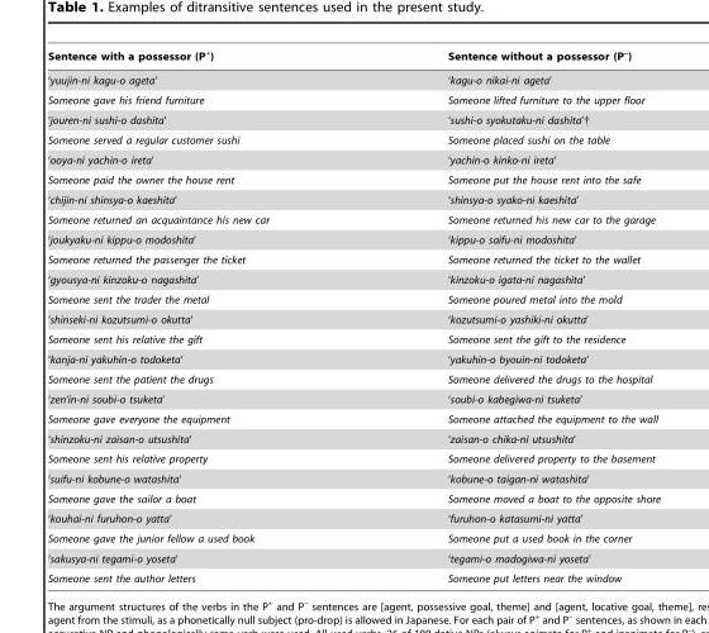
<table><thead><tr><td>Sentence with a possessor (P<sup>+</sup>)</td><td>Sentence without a possessor (P<sup>–</sup>)</td></tr></thead><tbody><tr><td>‘yuujin-ni kagu-o ageta’</td><td>‘kagu-o nikai-ni ageta’</td></tr><tr><td>Someone gave his friend furniture</td><td>Someone lifted furniture to the upper floor</td></tr><tr><td>‘jouren-ni sushi-o dashita’</td><td>‘sushi-o syokutaku-ni dashita’†</td></tr><tr><td>Someone served a regular customer sushi</td><td>Someone placed sushi on the table</td></tr><tr><td>‘ooya-ni yachin-o ireta’</td><td>‘yachin-o kinko-ni ireta’</td></tr><tr><td>Someone paid the owner the house rent</td><td>Someone put the house rent into the safe</td></tr><tr><td>‘chijin-ni shinsya-o kaeshita’</td><td>‘shinsya-o syako-ni kaeshita’</td></tr><tr><td>Someone returned an acquaintance his new car</td><td>Someone returned his new car to the garage</td></tr><tr><td>‘joukyaku-ni kippu-o modoshita’</td><td>‘kippu-o saifu-ni modoshita’</td></tr><tr><td>Someone returned the passenger the ticket</td><td>Someone returned the ticket to the wallet</td></tr><tr><td>‘gyousya-ni kinzoku-o nagashita’</td><td>‘kinzoku-o igata-ni nagashita’</td></tr><tr><td>Someone sent the trader the metal</td><td>Someone poured metal into the mold</td></tr><tr><td>‘shinseki-ni kozutsumi-o okutta’</td><td>‘kozutsumi-o yashiki-ni okutta’</td></tr><tr><td>Someone sent his relative the gift</td><td>Someone sent the gift to the residence</td></tr><tr><td>‘kanja-ni yakuhin-o todoketa’</td><td>‘yakuhin-o byouin-ni todoketa’</td></tr><tr><td>Someone sent the patient the drugs</td><td>Someone delivered the drugs to the hospital</td></tr><tr><td>‘zen’in-ni soubi-o tsuketa’</td><td>‘soubi-o kabegiwa-ni tsuketa’</td></tr><tr><td>Someone gave everyone the equipment</td><td>Someone attached the equipment to the wall</td></tr><tr><td>‘shinzoku-ni zaisan-o utsushita’</td><td>‘zaisan-o chika-ni utsushita’</td></tr><tr><td>Someone sent his relative property</td><td>Someone delivered property to the basement</td></tr><tr><td>‘suifu-ni kobune-o watashita’</td><td>‘kobune-o taigan-ni watashita’</td></tr><tr><td>Someone gave the sailor a boat</td><td>Someone moved a boat to the opposite shore</td></tr><tr><td>‘kouhai-ni furuhon-o yatta’</td><td>‘furuhon-o katasumi-ni yatta’</td></tr><tr><td>Someone gave the junior fellow a used book</td><td>Someone put a used book in the corner</td></tr><tr><td>‘sakusya-ni tegami-o yoseta’</td><td>‘tegami-o madogiwa-ni yoseta’</td></tr><tr><td>Someone sent the author letters</td><td>Someone put letters near the window</td></tr></tbody></table>